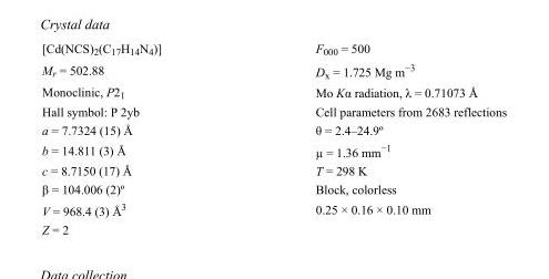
<table><tbody><tr><td>[Cd(NCS)<sub>2</sub>(C<sub>17</sub>H<sub>14</sub>N<sub>4</sub>)]</td><td>F000 = 500</td></tr><tr><td>M<sub>r</sub> = 502.88</td><td>D<sub>x</sub> = 1.725 Mg m<sup>−3</sup></td></tr><tr><td>Monoclinic, P2<sub>1</sub></td><td>Mo Kα radiation, λ = 0.71073 Å</td></tr><tr><td>Hall symbol: P 2yb</td><td>Cell parameters from 2683 reflections</td></tr><tr><td>a = 7.7324 (15) Å</td><td>θ = 2.4–24.9º</td></tr><tr><td>b = 14.811 (3) Å</td><td>µ = 1.36 mm<sup>−1</sup></td></tr><tr><td>c = 8.7150 (17) Å</td><td>T = 298 K</td></tr><tr><td>β = 104.006 (2)º</td><td>Block, colorless</td></tr><tr><td>V = 968.4 (3) Å<sup>3</sup></td><td>0.25 × 0.16 × 0.10 mm</td></tr><tr><td>Z = 2</td><td></td></tr></tbody></table>